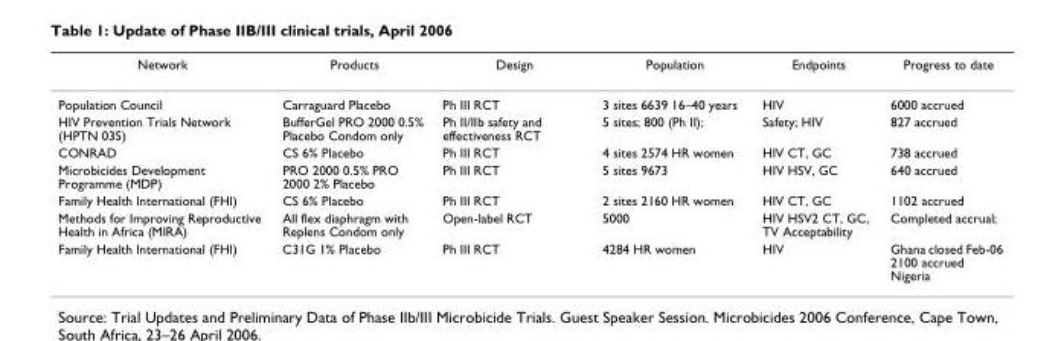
<table><thead><tr><td>Network</td><td>Products</td><td>Design</td><td>Population</td><td>Endpoints</td><td>Progress to date</td></tr></thead><tbody><tr><td>Population Council</td><td>Carraguard Placebo</td><td>Ph III RCT</td><td>3 sites 6639 16–40 years</td><td>HIV</td><td>6000 accrued</td></tr><tr><td>HIV Prevention Trials Network (HPTN 035)</td><td>BufferGel PRO 2000 0.5% Placebo Condom only</td><td>Ph II/IIb safety and effectiveness RCT</td><td>5 sites; 800 (Ph II);</td><td>Safety; HIV</td><td>827 accrued</td></tr><tr><td>CONRAD</td><td>CS 6% Placebo</td><td>Ph III RCT</td><td>4 sites 2574 HR women</td><td>HIV CT, GC</td><td>738 accrued</td></tr><tr><td>Microbicides Development Programme (MDP)</td><td>PRO 2000 0.5% PRO 2000 2% Placebo</td><td>Ph III RCT</td><td>5 sites 9673</td><td>HIV HSV, GC</td><td>640 accrued</td></tr><tr><td>Family Health International (FHI)</td><td>CS 6% Placebo</td><td>Ph III RCT</td><td>2 sites 2160 HR women</td><td>HIV CT, GC</td><td>1102 accrued</td></tr><tr><td>Methods for Improving Reproductive Health in Africa (MIRA)</td><td>All flex diaphragm with Replens Condom only</td><td>Open-label RCT</td><td>5000</td><td>HIV HSV2 CT, GC, TV Acceptability</td><td>Completed accrual;</td></tr><tr><td>Family Health International (FHI)</td><td>C31G 1% Placebo</td><td>Ph III RCT</td><td>4284 HR women</td><td>HIV</td><td>Ghana closed Feb-06 2100 accrued Nigeria</td></tr></tbody></table>